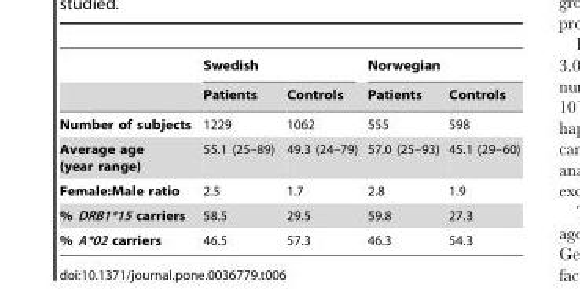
<table><thead><tr><td rowspan="2"></td><td colspan="2">Swedish</td><td colspan="2">Norwegian</td></tr><tr><td>Patients</td><td>Controls</td><td>Patients</td><td>Controls</td></tr></thead><tbody><tr><td>Number of subjects</td><td>1229</td><td>1062</td><td>555</td><td>598</td></tr><tr><td>Average age (year range)</td><td>55.1 (25–89)</td><td>49.3 (24–79)</td><td>57.0 (25–93)</td><td>45.1 (29–60)</td></tr><tr><td>Female:Male ratio</td><td>2.5</td><td>1.7</td><td>2.8</td><td>1.9</td></tr><tr><td>% DRB1*15 carriers</td><td>58.5</td><td>29.5</td><td>59.8</td><td>27.3</td></tr><tr><td>% A*02 carriers</td><td>46.5</td><td>57.3</td><td>46.3</td><td>54.3</td></tr></tbody></table>